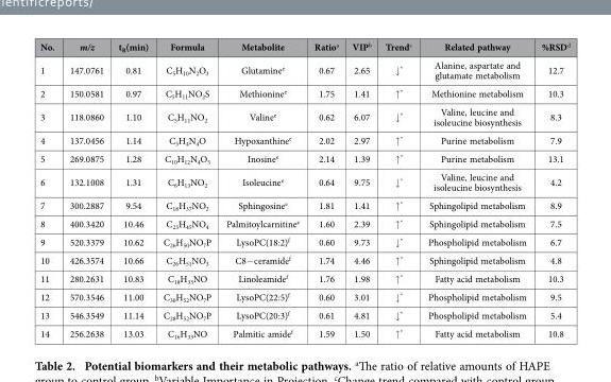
<table><thead><tr><td>No.</td><td>m/z</td><td>t<sub>R</sub>(min)</td><td>Formula</td><td>Metabolite</td><td>Ratio<sup>a</sup></td><td>VIP<sup>b</sup></td><td>Trend<sup>c</sup></td><td>Related pathway</td><td>%RSD<sup>d</sup></td></tr></thead><tbody><tr><td>1</td><td>147.0761</td><td>0.81</td><td>C<sub>5</sub>H<sub>10</sub>N<sub>2</sub>O<sub>3</sub></td><td>Glutamine<sup>e</sup></td><td>0.67</td><td>2.65</td><td>↓ *</td><td>Alanine, aspartate and glutamate metabolism</td><td>12.7</td></tr><tr><td>2</td><td>150.0581</td><td>0.97</td><td>C<sub>5</sub>H<sub>11</sub>NO<sub>2</sub>S</td><td>Methionine<sup>e</sup></td><td>1.75</td><td>1.41</td><td>↑ *</td><td>Methionine metabolism</td><td>10.3</td></tr><tr><td>3</td><td>118.0860</td><td>1.10</td><td>C<sub>5</sub>H<sub>11</sub>NO<sub>2</sub></td><td>Valine<sup>e</sup></td><td>0.62</td><td>6.07</td><td>↓ *</td><td>Valine, leucine and isoleucine biosynthesis</td><td>8.3</td></tr><tr><td>4</td><td>137.0456</td><td>1.14</td><td>C<sub>5</sub>H<sub>4</sub>N<sub>4</sub>O</td><td>Hypoxanthine<sup>e</sup></td><td>2.02</td><td>2.97</td><td>↑ *</td><td>Purine metabolism</td><td>7.9</td></tr><tr><td>5</td><td>269.0875</td><td>1.28</td><td>C<sub>10</sub>H<sub>12</sub>N<sub>4</sub>O<sub>5</sub></td><td>Inosine<sup>e</sup></td><td>2.14</td><td>1.39</td><td>↑ *</td><td>Purine metabolism</td><td>13.1</td></tr><tr><td>6</td><td>132.1008</td><td>1.31</td><td>C<sub>6</sub>H<sub>13</sub>NO<sub>2</sub></td><td>Isoleucine<sup>e</sup></td><td>0.64</td><td>9.75</td><td>↓ *</td><td>Valine, leucine and isoleucine biosynthesis</td><td>4.2</td></tr><tr><td>7</td><td>300.2887</td><td>9.54</td><td>C<sub>18</sub>H<sub>37</sub>NO<sub>2</sub></td><td>Sphingosine<sup>e</sup></td><td>1.81</td><td>1.41</td><td>↑ *</td><td>Sphingolipid metabolism</td><td>8.9</td></tr><tr><td>8</td><td>400.3420</td><td>10.46</td><td>C<sub>23</sub>H<sub>45</sub>NO<sub>4</sub></td><td>Palmitoylcarnitine<sup>e</sup></td><td>1.60</td><td>2.39</td><td>↑ *</td><td>Sphingolipid metabolism</td><td>7.5</td></tr><tr><td>9</td><td>520.3379</td><td>10.62</td><td>C<sub>26</sub>H<sub>50</sub>NO<sub>7</sub>P</td><td>LysoPC(18:2)<sup>f</sup></td><td>0.60</td><td>9.73</td><td>↓ *</td><td>Phospholipid metabolism</td><td>6.7</td></tr><tr><td>10</td><td>426.3574</td><td>10.66</td><td>C<sub>26</sub>H<sub>51</sub>NO<sub>3</sub></td><td>C8− ceramide<sup>f</sup></td><td>1.74</td><td>4.46</td><td>↑ *</td><td>Sphingolipid metabolism</td><td>4.8</td></tr><tr><td>11</td><td>280.2631</td><td>10.83</td><td>C<sub>18</sub>H<sub>33</sub>NO</td><td>Linoleamide<sup>f</sup></td><td>1.76</td><td>1.98</td><td>↑ *</td><td>Fatty acid metabolism</td><td>10.3</td></tr><tr><td>12</td><td>570.3546</td><td>11.00</td><td>C<sub>30</sub>H<sub>52</sub>NO<sub>7</sub>P</td><td>LysoPC(22:5)<sup>f</sup></td><td>0.60</td><td>3.01</td><td>↓ *</td><td>Phospholipid metabolism</td><td>9.5</td></tr><tr><td>13</td><td>546.3549</td><td>11.14</td><td>C<sub>28</sub>H<sub>52</sub>NO<sub>7</sub>P</td><td>LysoPC(20:3)<sup>f</sup></td><td>0.61</td><td>4.81</td><td>↓ *</td><td>Phospholipid metabolism</td><td>5.4</td></tr><tr><td>14</td><td>256.2638</td><td>13.03</td><td>C<sub>16</sub>H<sub>33</sub>NO</td><td>Palmitic amide<sup>f</sup></td><td>1.59</td><td>1.50</td><td>↑ *</td><td>Fatty acid metabolism</td><td>10.8</td></tr></tbody></table>